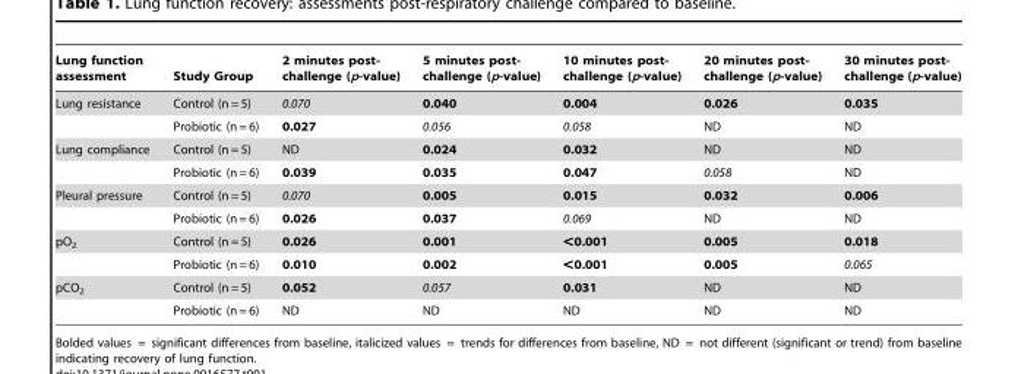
<table><thead><tr><td>Lung function assessment</td><td>Study Group</td><td>2 minutes post- challenge (p-value)</td><td>5 minutes post- challenge (p-value)</td><td>10 minutes post- challenge (p-value)</td><td>20 minutes post- challenge (p-value)</td><td>30 minutes post- challenge (p-value)</td></tr></thead><tbody><tr><td rowspan="2">Lung resistance</td><td>Control (n = 5)</td><td>0.070</td><td>0.040</td><td>0.004</td><td>0.026</td><td>0.035</td></tr><tr><td>Probiotic (n = 6)</td><td>0.027</td><td>0.056</td><td>0.058</td><td>ND</td><td>ND</td></tr><tr><td rowspan="2">Lung compliance</td><td>Control (n = 5)</td><td>ND</td><td>0.024</td><td>0.032</td><td>ND</td><td>ND</td></tr><tr><td>Probiotic (n = 6)</td><td>0.039</td><td>0.035</td><td>0.047</td><td>0.058</td><td>ND</td></tr><tr><td rowspan="2">Pleural pressure</td><td>Control (n = 5)</td><td>0.070</td><td>0.005</td><td>0.015</td><td>0.032</td><td>0.006</td></tr><tr><td>Probiotic (n = 6)</td><td>0.026</td><td>0.037</td><td>0.069</td><td>ND</td><td>ND</td></tr><tr><td rowspan="2">pO<sub>2</sub></td><td>Control (n = 5)</td><td>0.026</td><td>0.001</td><td>&lt;0.001</td><td>0.005</td><td>0.018</td></tr><tr><td>Probiotic (n = 6)</td><td>0.010</td><td>0.002</td><td>&lt;0.001</td><td>0.005</td><td>0.065</td></tr><tr><td rowspan="2">pCO<sub>2</sub></td><td>Control (n = 5)</td><td>0.052</td><td>0.057</td><td>0.031</td><td>ND</td><td>ND</td></tr><tr><td>Probiotic (n = 6)</td><td>ND</td><td>ND</td><td>ND</td><td>ND</td><td>ND</td></tr></tbody></table>